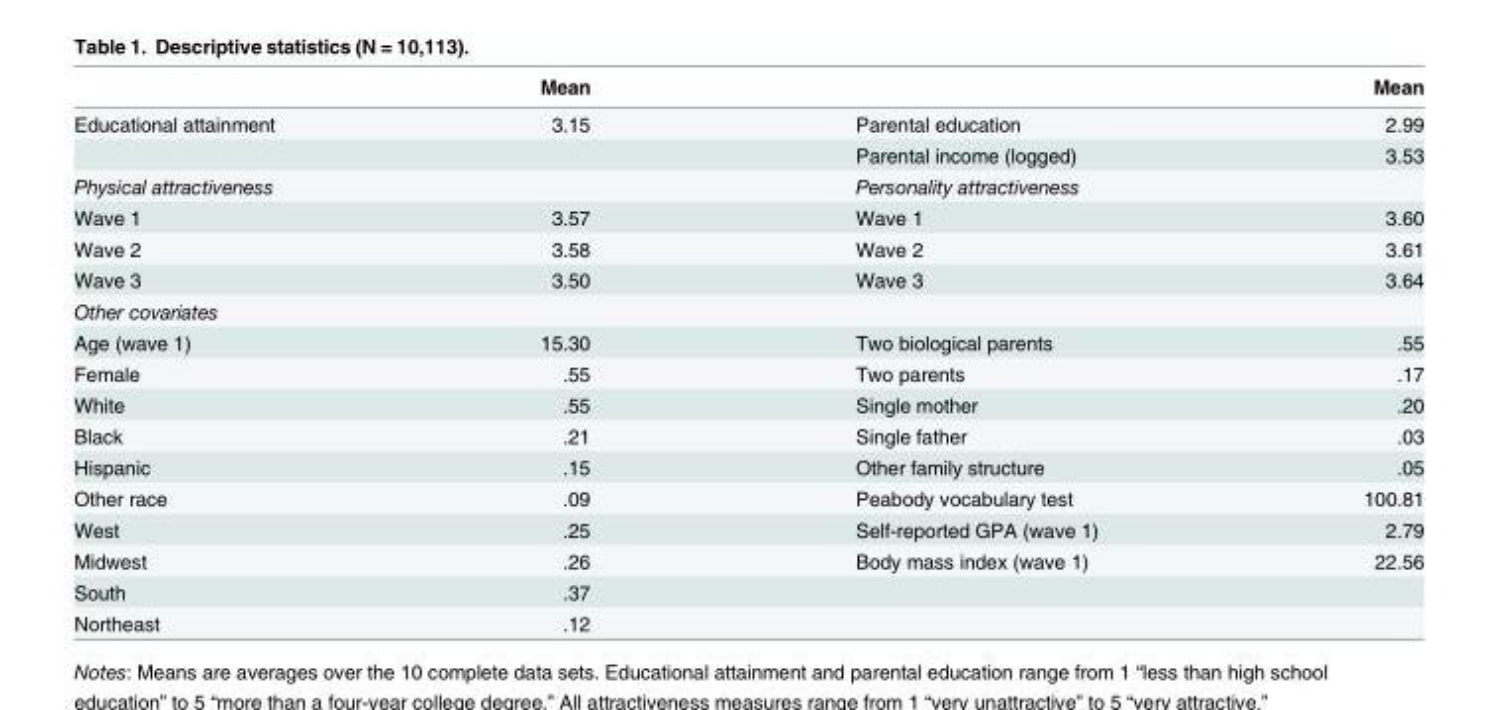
<table><thead><tr><td></td><td>Mean</td><td></td><td>Mean</td></tr></thead><tbody><tr><td rowspan="2">Educational attainment</td><td>3.15</td><td>Parental education</td><td>2.99</td></tr><tr><td></td><td>Parental income (logged)</td><td>3.53</td></tr><tr><td>Physical attractiveness</td><td></td><td>Personality attractiveness</td><td></td></tr><tr><td>Wave 1</td><td>3.57</td><td>Wave 1</td><td>3.60</td></tr><tr><td>Wave 2</td><td>3.58</td><td>Wave 2</td><td>3.61</td></tr><tr><td>Wave 3</td><td>3.50</td><td>Wave 3</td><td>3.64</td></tr><tr><td colspan="4">Other covariates</td></tr><tr><td>Age (wave 1)</td><td>15.30</td><td>Two biological parents</td><td>.55</td></tr><tr><td>Female</td><td>.55</td><td>Two parents</td><td>.17</td></tr><tr><td>White</td><td>.55</td><td>Single mother</td><td>.20</td></tr><tr><td>Black</td><td>.21</td><td>Single father</td><td>.03</td></tr><tr><td>Hispanic</td><td>.15</td><td>Other family structure</td><td>.05</td></tr><tr><td>Other race</td><td>.09</td><td>Peabody vocabulary test</td><td>100.81</td></tr><tr><td>West</td><td>.25</td><td>Self-reported GPA (wave 1)</td><td>2.79</td></tr><tr><td>Midwest</td><td>.26</td><td>Body mass index (wave 1)</td><td>22.56</td></tr><tr><td>South</td><td>.37</td><td></td><td></td></tr><tr><td>Northeast</td><td>.12</td><td></td><td></td></tr></tbody></table>